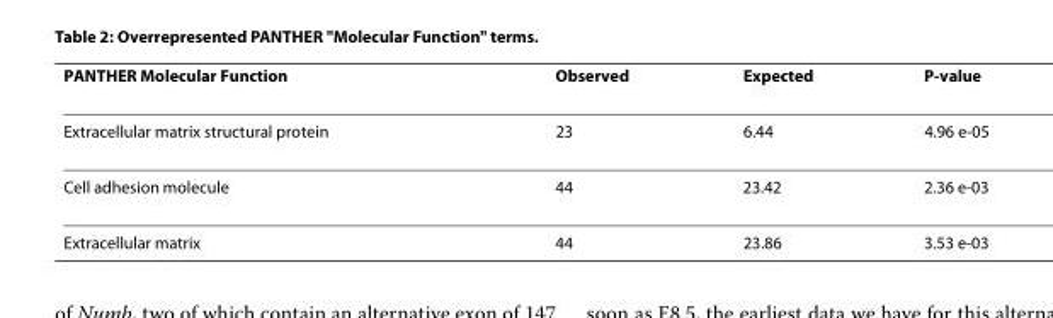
<table><thead><tr><td>PANTHER Molecular Function</td><td>Observed</td><td>Expected</td><td>P-value</td></tr></thead><tbody><tr><td>Extracellular matrix structural protein</td><td>23</td><td>6.44</td><td>4.96 e-05</td></tr><tr><td>Cell adhesion molecule</td><td>44</td><td>23.42</td><td>2.36 e-03</td></tr><tr><td>Extracellular matrix</td><td>44</td><td>23.86</td><td>3.53 e-03</td></tr></tbody></table>